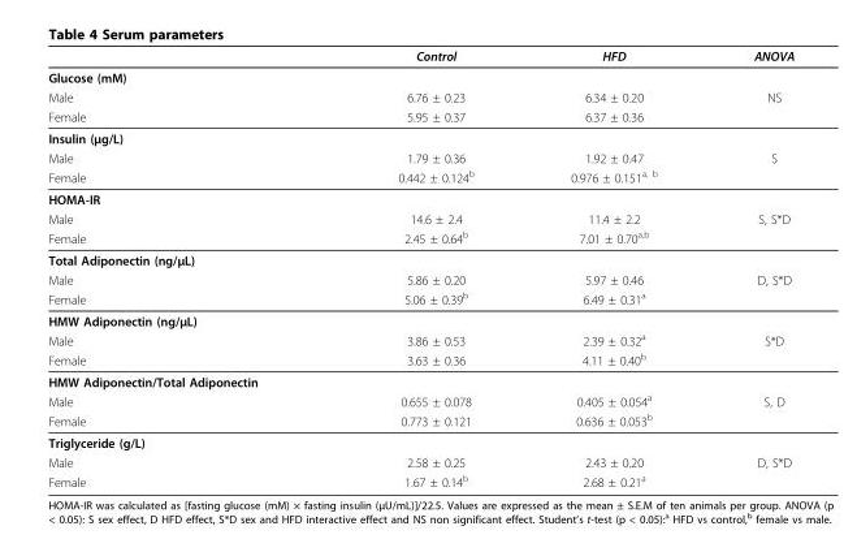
<table><thead><tr><td></td><td>Control</td><td>HFD</td><td>ANOVA</td></tr></thead><tbody><tr><td colspan="4">Glucose (mM)</td></tr><tr><td>Male</td><td>6.76 ± 0.23</td><td>6.34 ± 0.20</td><td>NS</td></tr><tr><td>Female</td><td>5.95 ± 0.37</td><td>6.37 ± 0.36</td><td></td></tr><tr><td colspan="4">Insulin (μg/L)</td></tr><tr><td>Male</td><td>1.79 ± 0.36</td><td>1.92 ± 0.47</td><td>S</td></tr><tr><td>Female</td><td>0.442 ± 0.124<sup>b</sup></td><td>0.976 ± 0.151<sup>a, b</sup></td><td></td></tr><tr><td colspan="4">HOMA-IR</td></tr><tr><td>Male</td><td>14.6 ± 2.4</td><td>11.4 ± 2.2</td><td>S, S*D</td></tr><tr><td>Female</td><td>2.45 ± 0.64<sup>b</sup></td><td>7.01 ± 0.70<sup>a,b</sup></td><td></td></tr><tr><td colspan="4">Total Adiponectin (ng/μL)</td></tr><tr><td>Male</td><td>5.86 ± 0.20</td><td>5.97 ± 0.46</td><td>D, S*D</td></tr><tr><td>Female</td><td>5.06 ± 0.39<sup>b</sup></td><td>6.49 ± 0.31<sup>a</sup></td><td></td></tr><tr><td colspan="4">HMW Adiponectin (ng/μL)</td></tr><tr><td>Male</td><td>3.86 ± 0.53</td><td>2.39 ± 0.32<sup>a</sup></td><td>S*D</td></tr><tr><td>Female</td><td>3.63 ± 0.36</td><td>4.11 ± 0.40<sup>b</sup></td><td></td></tr><tr><td colspan="4">HMW Adiponectin/Total Adiponectin</td></tr><tr><td>Male</td><td>0.655 ± 0.078</td><td>0.405 ± 0.054<sup>a</sup></td><td>S, D</td></tr><tr><td>Female</td><td>0.773 ± 0.121</td><td>0.636 ± 0.053<sup>b</sup></td><td></td></tr><tr><td colspan="4">Triglyceride (g/L)</td></tr><tr><td>Male</td><td>2.58 ± 0.25</td><td>2.43 ± 0.20</td><td>D, S*D</td></tr><tr><td>Female</td><td>1.67 ± 0.14<sup>b</sup></td><td>2.68 ± 0.21<sup>a</sup></td><td></td></tr></tbody></table>